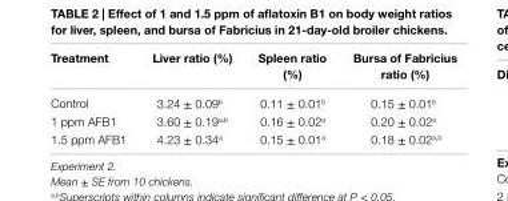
<table><thead><tr><td>Treatment</td><td>liver ratio (%)</td><td>spleen ratio (%)</td><td>Bursa of Fabricius ratio (%)</td></tr></thead><tbody><tr><td>Control</td><td>3.24 ± 0.09<sup>b</sup></td><td>0.11 ± 0.01<sup>b</sup></td><td>0.15 ± 0.01<sup>b</sup></td></tr><tr><td>1 ppm AFB1</td><td>3.60 ± 0.19<sup>a,b</sup></td><td>0.16 ± 0.02<sup>a</sup></td><td>0.20 ± 0.02<sup>a</sup></td></tr><tr><td>1.5 ppm AFB1</td><td>4.23 ± 0.34<sup>a</sup></td><td>0.15 ± 0.01<sup>a</sup></td><td>0.18 ± 0.02<sup>a,b</sup></td></tr></tbody></table>